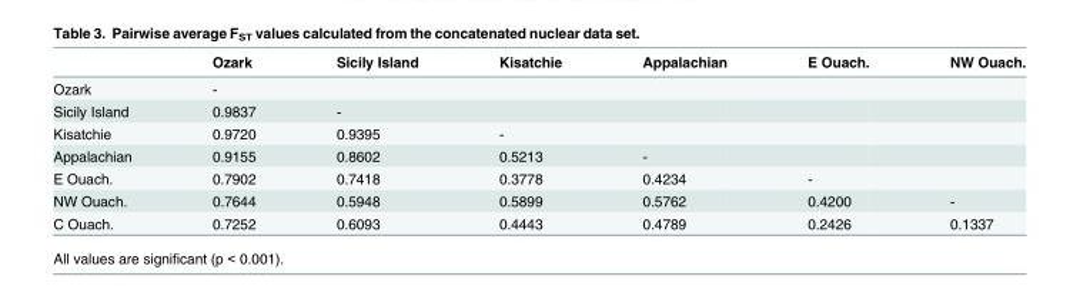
<table><thead><tr><td></td><td>Ozark</td><td>Sicily Island</td><td>Kisatchie</td><td>Appalachian</td><td>E Ouach.</td><td>NW Ouach.</td></tr></thead><tbody><tr><td>Ozark</td><td>-</td><td></td><td></td><td></td><td></td><td></td></tr><tr><td>Sicily Island</td><td>0.9837</td><td>-</td><td></td><td></td><td></td><td></td></tr><tr><td>Kisatchie</td><td>0.9720</td><td>0.9395</td><td>-</td><td></td><td></td><td></td></tr><tr><td>Appalachian</td><td>0.9155</td><td>0.8602</td><td>0.5213</td><td>-</td><td></td><td></td></tr><tr><td>E Ouach.</td><td>0.7902</td><td>0.7418</td><td>0.3778</td><td>0.4234</td><td>-</td><td></td></tr><tr><td>NW Ouach.</td><td>0.7644</td><td>0.5948</td><td>0.5899</td><td>0.5762</td><td>0.4200</td><td>-</td></tr><tr><td>C Ouach.</td><td>0.7252</td><td>0.6093</td><td>0.4443</td><td>0.4789</td><td>0.2426</td><td>0.1337</td></tr></tbody></table>